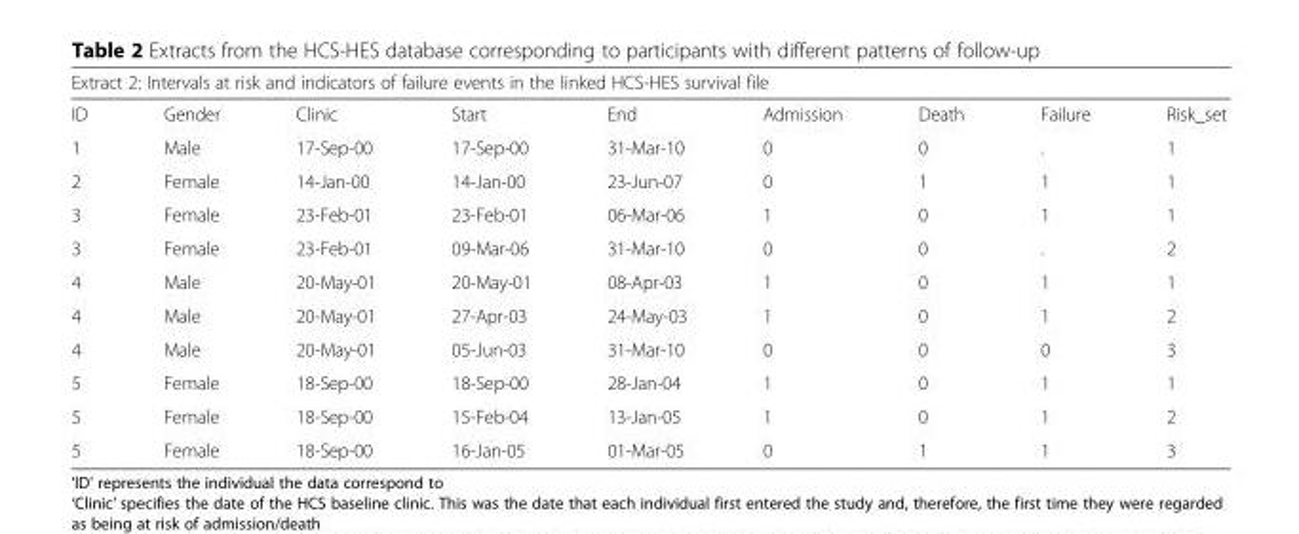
<table><thead><tr><td colspan="9">Extract 2: Intervals at risk and indicators of failure events in the linked HCS-HES survival file</td></tr><tr><td>ID</td><td>Gender</td><td>Clinic</td><td>Start</td><td>End</td><td>Admission</td><td>Death</td><td>Failure</td><td>Risk_set</td></tr></thead><tbody><tr><td>1</td><td>Male</td><td>17-Sep-00</td><td>17-Sep-00</td><td>31-Mar-10</td><td>0</td><td>0</td><td>.</td><td>1</td></tr><tr><td>2</td><td>Female</td><td>14-Jan-00</td><td>14-Jan-00</td><td>23-Jun-07</td><td>0</td><td>1</td><td>1</td><td>1</td></tr><tr><td>3</td><td>Female</td><td>23-Feb-01</td><td>23-Feb-01</td><td>06-Mar-06</td><td>1</td><td>0</td><td>1</td><td>1</td></tr><tr><td>3</td><td>Female</td><td>23-Feb-01</td><td>09-Mar-06</td><td>31-Mar-10</td><td>0</td><td>0</td><td>.</td><td>2</td></tr><tr><td>4</td><td>Male</td><td>20-May-01</td><td>20-May-01</td><td>08-Apr-03</td><td>1</td><td>0</td><td>1</td><td>1</td></tr><tr><td>4</td><td>Male</td><td>20-May-01</td><td>27-Apr-03</td><td>24-May-03</td><td>1</td><td>0</td><td>1</td><td>2</td></tr><tr><td>4</td><td>Male</td><td>20-May-01</td><td>05-Jun-03</td><td>31-Mar-10</td><td>0</td><td>0</td><td>0</td><td>3</td></tr><tr><td>5</td><td>Female</td><td>18-Sep-00</td><td>18-Sep-00</td><td>28-Jan-04</td><td>1</td><td>0</td><td>1</td><td>1</td></tr><tr><td>5</td><td>Female</td><td>18-Sep-00</td><td>15-Feb-04</td><td>13-Jan-05</td><td>1</td><td>0</td><td>1</td><td>2</td></tr><tr><td>5</td><td>Female</td><td>18-Sep-00</td><td>16-Jan-05</td><td>01-Mar-05</td><td>0</td><td>1</td><td>1</td><td>3</td></tr></tbody></table>